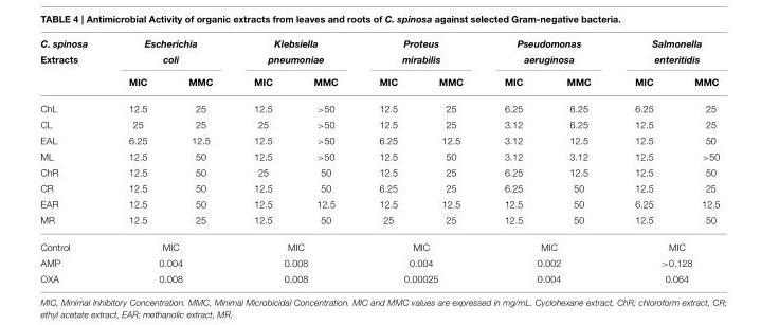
<table><thead><tr><td rowspan="2">C. spinosa Extracts</td><td colspan="2">Escherichia coli</td><td colspan="2">Klebsiella pneumoniae</td><td colspan="2">Proteus mirabilis</td><td colspan="2">Pseudomonas aeruginosa</td><td colspan="2">Salmonella enteritidis</td></tr><tr><td>MIC</td><td>MMC</td><td>MIC</td><td>MMC</td><td>MIC</td><td>MMC</td><td>MIC</td><td>MMC</td><td>MIC</td><td>MMC</td></tr></thead><tbody><tr><td>ChL</td><td>12.5</td><td>25</td><td>12.5</td><td>&gt;50</td><td>12.5</td><td>25</td><td>6.25</td><td>6.25</td><td>6.25</td><td>25</td></tr><tr><td>CL</td><td>25</td><td>25</td><td>25</td><td>&gt;50</td><td>12.5</td><td>25</td><td>3.12</td><td>6.25</td><td>12.5</td><td>25</td></tr><tr><td>EAL</td><td>6.25</td><td>12.5</td><td>12.5</td><td>&gt;50</td><td>6.25</td><td>12.5</td><td>3.12</td><td>12.5</td><td>12.5</td><td>50</td></tr><tr><td>ML</td><td>12.5</td><td>50</td><td>12.5</td><td>&gt;50</td><td>12.5</td><td>50</td><td>3.12</td><td>3.12</td><td>12.5</td><td>&gt;50</td></tr><tr><td>ChR</td><td>12.5</td><td>50</td><td>25</td><td>50</td><td>12.5</td><td>25</td><td>6.25</td><td>12.5</td><td>12.5</td><td>50</td></tr><tr><td>CR</td><td>12.5</td><td>50</td><td>12.5</td><td>50</td><td>6.25</td><td>25</td><td>6.25</td><td>50</td><td>12.5</td><td>25</td></tr><tr><td>EAR</td><td>12.5</td><td>50</td><td>12.5</td><td>12.5</td><td>12.5</td><td>12.5</td><td>12.5</td><td>50</td><td>6.25</td><td>12.5</td></tr><tr><td>MR</td><td>12.5</td><td>25</td><td>12.5</td><td>50</td><td>25</td><td>25</td><td>12.5</td><td>50</td><td>12.5</td><td>50</td></tr><tr><td>Control</td><td colspan="2">MIC</td><td colspan="2">MIC</td><td colspan="2">MIC</td><td colspan="2">MIC</td><td colspan="2">MIC</td></tr><tr><td>AMP</td><td colspan="2">0.004</td><td colspan="2">0.008</td><td colspan="2">0.004</td><td colspan="2">0.002</td><td colspan="2">&gt;0.128</td></tr><tr><td>OXA</td><td colspan="2">0.008</td><td colspan="2">0.008</td><td colspan="2">0.00025</td><td colspan="2">0.004</td><td colspan="2">0.064</td></tr></tbody></table>